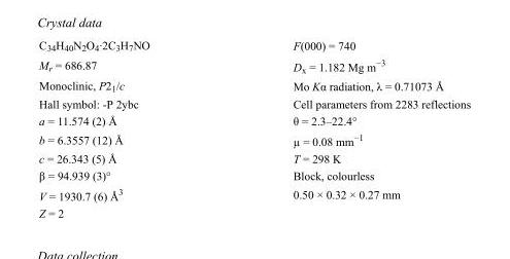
<table><tbody><tr><td>C<sub>34</sub>H<sub>40</sub>N<sub>2</sub>O<sub>4</sub>·2C<sub>3</sub>H<sub>7</sub>NO</td><td>F(000) = 740</td></tr><tr><td>M<sub>r</sub> = 686.87</td><td>D<sub>x</sub> = 1.182 Mg m<sup>−3</sup></td></tr><tr><td>Monoclinic, P2<sub>1</sub>/c</td><td>Mo Kα radiation, λ = 0.71073 Å</td></tr><tr><td>Hall symbol: -P 2ybc</td><td>Cell parameters from 2283 reflections</td></tr><tr><td>a = 11.574 (2) Å</td><td>θ = 2.3–22.4°</td></tr><tr><td>b = 6.3557 (12) Å</td><td>µ = 0.08 mm<sup>−1</sup></td></tr><tr><td>c = 26.343 (5) Å</td><td>T = 298 K</td></tr><tr><td>β = 94.939 (3)°</td><td>Block, colourless</td></tr><tr><td>V = 1930.7 (6) Å<sup>3</sup></td><td>0.50 × 0.32 × 0.27 mm</td></tr><tr><td>Z = 2</td><td></td></tr></tbody></table>